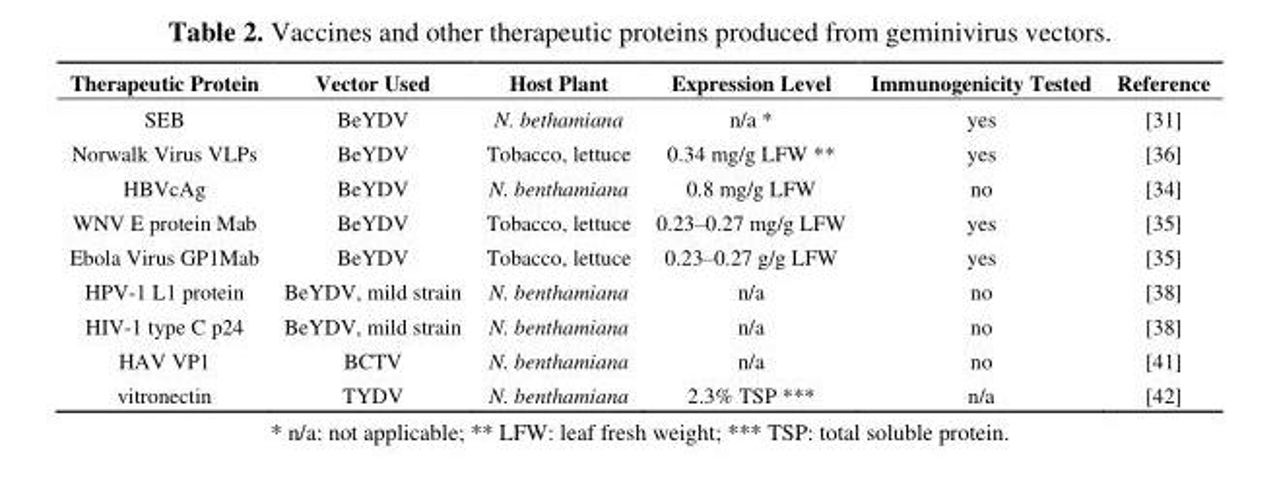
<table><thead><tr><td>Therapeutic Protein</td><td>Vector Used</td><td>Host Plant</td><td>Expression Level</td><td>Immunogenicity Tested</td><td>Reference</td></tr></thead><tbody><tr><td>SEB</td><td>BeYDV</td><td>N. bethamiana</td><td>n/a *</td><td>yes</td><td>[31]</td></tr><tr><td>Norwalk Virus VLPs</td><td>BeYDV</td><td>Tobacco, lettuce</td><td>0.34 mg/g LFW **</td><td>yes</td><td>[36]</td></tr><tr><td>HBVcAg</td><td>BeYDV</td><td>N. benthamiana</td><td>0.8 mg/g LFW</td><td>no</td><td>[34]</td></tr><tr><td>WNV E protein Mab</td><td>BeYDV</td><td>Tobacco, lettuce</td><td>0.23–0.27 mg/g LFW</td><td>yes</td><td>[35]</td></tr><tr><td>Ebola Virus GP1Mab</td><td>BeYDV</td><td>Tobacco, lettuce</td><td>0.23–0.27 g/g LFW</td><td>yes</td><td>[35]</td></tr><tr><td>HPV-1 L1 protein</td><td>BeYDV, mild strain</td><td>N. benthamiana</td><td>n/a</td><td>no</td><td>[38]</td></tr><tr><td>HIV-1 type C p24</td><td>BeYDV, mild strain</td><td>N. benthamiana</td><td>n/a</td><td>no</td><td>[38]</td></tr><tr><td>HAV VP1</td><td>BCTV</td><td>N. benthamiana</td><td>n/a</td><td>no</td><td>[41]</td></tr><tr><td>vitronectin</td><td>TYDV</td><td>N. benthamiana</td><td>2.3% TSP ***</td><td>n/a</td><td>[42]</td></tr></tbody></table>